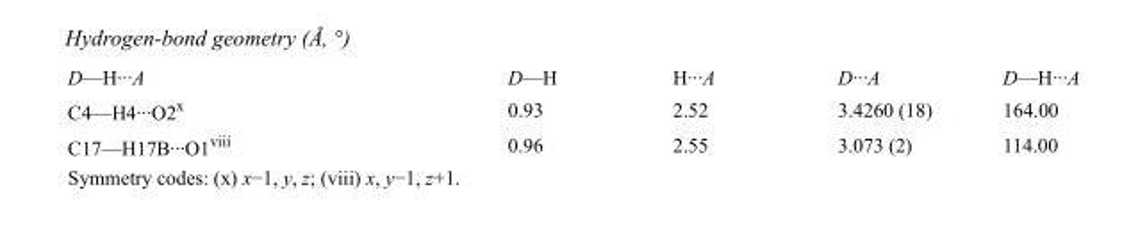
<table><tbody><tr><td>D—H···A</td><td>D—H</td><td>H···A</td><td>D···A</td><td>D—H···A</td></tr><tr><td>C4—H4···O2<sup>x</sup></td><td>0.93</td><td>2.52</td><td>3.4260 (18)</td><td>164.00</td></tr><tr><td>C17—H17B···O1<sup>viii</sup></td><td>0.96</td><td>2.55</td><td>3.073 (2)</td><td>114.00</td></tr></tbody></table>